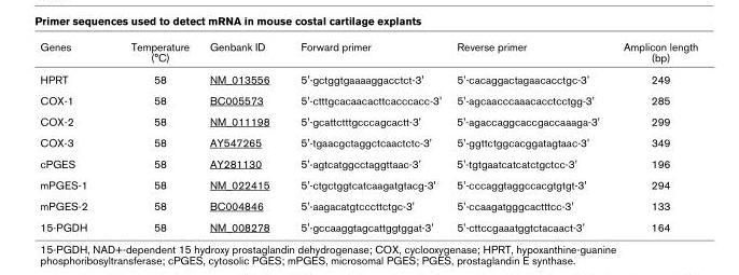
<table><thead><tr><td>Genes</td><td>Temperature (°C)</td><td>Genbank ID</td><td>Forward primer</td><td>Reverse primer</td><td>Amplicon length (bp)</td></tr></thead><tbody><tr><td>HPRT</td><td>58</td><td>NM_013556</td><td>5&#x27;-gctggtgaaaaggacctct-3&#x27;</td><td>5&#x27;-cacaggactagaacacctgc-3&#x27;</td><td>249</td></tr><tr><td>COX-1</td><td>58</td><td>BC005573</td><td>5&#x27;-ctttgcacaacacttcacccacc-3&#x27;</td><td>5&#x27;-agcaacccaaacacctcctgg-3&#x27;</td><td>285</td></tr><tr><td>COX-2</td><td>58</td><td>NM_011198</td><td>5&#x27;-gcattctttgcccagcactt-3&#x27;</td><td>5&#x27;-agaccaggcaccgaccaaaga-3&#x27;</td><td>299</td></tr><tr><td>COX-3</td><td>58</td><td>AY547265</td><td>5&#x27;-tgaacgctaggctcaactctc-3&#x27;</td><td>5&#x27;-ggttctggcacggatagtaac-3&#x27;</td><td>349</td></tr><tr><td>cPGES</td><td>58</td><td>AY281130</td><td>5&#x27;-agtcatggcctaggttaac-3&#x27;</td><td>5&#x27;-tgtgaatcatcatctgctcc-3&#x27;</td><td>196</td></tr><tr><td>mPGES-1</td><td>58</td><td>NM_022415</td><td>5&#x27;-ctgctggtcatcaagatgtacg-3&#x27;</td><td>5&#x27;-cccaggtaggccacgtgtgt-3&#x27;</td><td>294</td></tr><tr><td>mPGES-2</td><td>58</td><td>BC004846</td><td>5&#x27;-aagacatgtcccttctgc-3&#x27;</td><td>5&#x27;-ccaagatgggcactttcc-3&#x27;</td><td>133</td></tr><tr><td>15-PGDH</td><td>58</td><td>NM_008278</td><td>5&#x27;-gccaaggtagcattggtggat-3&#x27;</td><td>5&#x27;-cttccgaaatggtctacaact-3&#x27;</td><td>164</td></tr></tbody></table>